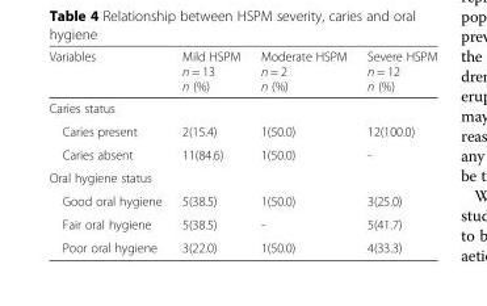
<table><thead><tr><td>Variables</td><td>Mild HSPM n = 13 n (%)</td><td>Moderate HSPM n = 2 n (%)</td><td>Severe HSPM n = 12 n (%)</td></tr></thead><tbody><tr><td colspan="4">Caries status</td></tr><tr><td>Caries present</td><td>2(15.4)</td><td>1(50.0)</td><td>12(100.0)</td></tr><tr><td>Caries absent</td><td>11(84.6)</td><td>1(50.0)</td><td>-</td></tr><tr><td colspan="4">Oral hygiene status</td></tr><tr><td>Good oral hygiene</td><td>5(38.5)</td><td>1(50.0)</td><td>3(25.0)</td></tr><tr><td>Fair oral hygiene</td><td>5(38.5)</td><td>-</td><td>5(41.7)</td></tr><tr><td>Poor oral hygiene</td><td>3(22.0)</td><td>1(50.0)</td><td>4(33.3)</td></tr></tbody></table>